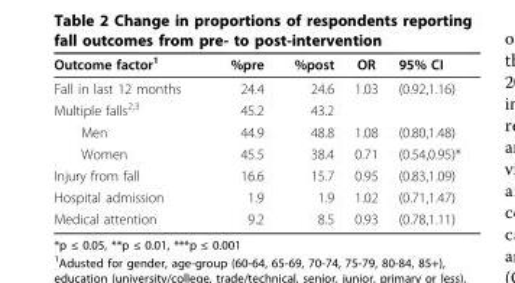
<table><thead><tr><td>Outcome factor<sup>1</sup></td><td>%pre</td><td>%post</td><td>OR</td><td>95% CI</td></tr></thead><tbody><tr><td>Fall in last 12 months</td><td>24.4</td><td>24.6</td><td>1.03</td><td>(0.92,1.16)</td></tr><tr><td>Multiple falls<sup>2,3</sup></td><td>45.2</td><td>43.2</td><td></td><td></td></tr><tr><td>Men</td><td>44.9</td><td>48.8</td><td>1.08</td><td>(0.80,1.48)</td></tr><tr><td>Women</td><td>45.5</td><td>38.4</td><td>0.71</td><td>(0.54,0.95)*</td></tr><tr><td>Injury from fall</td><td>16.6</td><td>15.7</td><td>0.95</td><td>(0.83,1.09)</td></tr><tr><td>Hospital admission</td><td>1.9</td><td>1.9</td><td>1.02</td><td>(0.71,1.47)</td></tr><tr><td>Medical attention</td><td>9.2</td><td>8.5</td><td>0.93</td><td>(0.78,1.11)</td></tr></tbody></table>